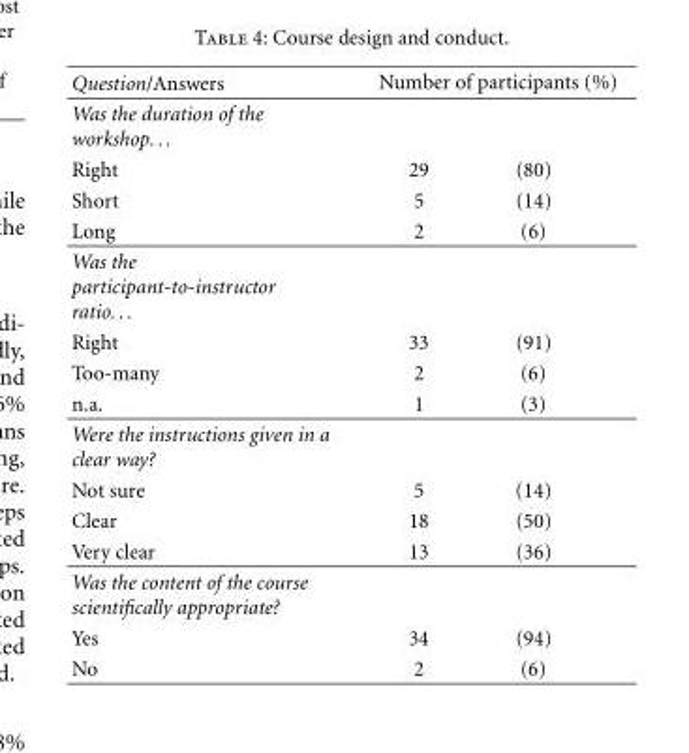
<table><thead><tr><td rowspan="3">Question/Answers Was the duration of the workshop... Right</td><td rowspan="2" colspan="2">Number of participants (%)</td></tr><tr></tr><tr><td>29</td><td>(80)</td></tr></thead><tbody><tr><td>Short</td><td>5</td><td>(14)</td></tr><tr><td>Long</td><td>2</td><td>(6)</td></tr><tr><td colspan="3">Was the participant-to-instructor ratio...</td></tr><tr><td>Right</td><td>33</td><td>(91)</td></tr><tr><td>Too-many</td><td>2</td><td>(6)</td></tr><tr><td>n.a.</td><td>1</td><td>(3)</td></tr><tr><td colspan="3">Were the instructions given in a clear way?</td></tr><tr><td>Not sure</td><td>5</td><td>(14)</td></tr><tr><td>Clear</td><td>18</td><td>(50)</td></tr><tr><td>Very clear</td><td>13</td><td>(36)</td></tr><tr><td colspan="3">Was the content of the course scientifically appropriate?</td></tr><tr><td>Yes</td><td>34</td><td>(94)</td></tr><tr><td>No</td><td>2</td><td>(6)</td></tr></tbody></table>